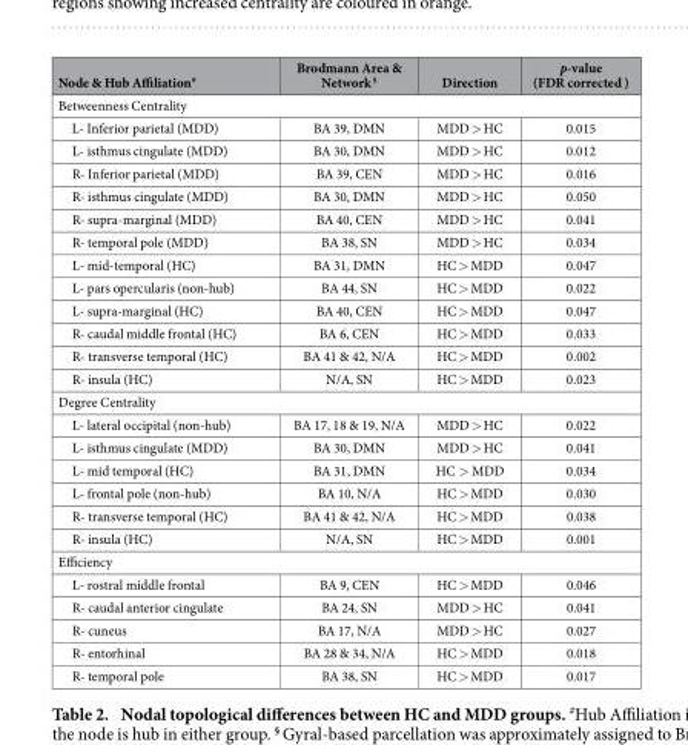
<table><thead><tr><td>Node &amp; Hub Affiliation#</td><td>Brodmann Area &amp; Network <sup>§</sup></td><td>Direction</td><td>p-value (FDR corrected )</td></tr></thead><tbody><tr><td colspan="4">Betweenness Centrality</td></tr><tr><td>L- Inferior parietal (MDD)</td><td>BA 39, DMN</td><td>MDD &gt; HC</td><td>0.015</td></tr><tr><td>L- isthmus cingulate (MDD)</td><td>BA 30, DMN</td><td>MDD &gt; HC</td><td>0.012</td></tr><tr><td>R- Inferior parietal (MDD)</td><td>BA 39, CEN</td><td>MDD &gt; HC</td><td>0.016</td></tr><tr><td>R- isthmus cingulate (MDD)</td><td>BA 30, DMN</td><td>MDD &gt; HC</td><td>0.050</td></tr><tr><td>R- supra-marginal (MDD)</td><td>BA 40, CEN</td><td>MDD &gt; HC</td><td>0.041</td></tr><tr><td>R- temporal pole (MDD)</td><td>BA 38, SN</td><td>MDD &gt; HC</td><td>0.034</td></tr><tr><td>L- mid-temporal (HC)</td><td>BA 31, DMN</td><td>HC &gt; MDD</td><td>0.047</td></tr><tr><td>L- pars opercularis (non-hub)</td><td>BA 44, SN</td><td>HC &gt; MDD</td><td>0.022</td></tr><tr><td>L- supra-marginal (HC)</td><td>BA 40, CEN</td><td>HC &gt; MDD</td><td>0.047</td></tr><tr><td>R- caudal middle frontal (HC)</td><td>BA 6, CEN</td><td>HC &gt; MDD</td><td>0.033</td></tr><tr><td>R- transverse temporal (HC)</td><td>BA 41 &amp; 42, N/A</td><td>HC &gt; MDD</td><td>0.002</td></tr><tr><td>R- insula (HC)</td><td>N/A, SN</td><td>HC &gt; MDD</td><td>0.023</td></tr><tr><td colspan="4">Degree Centrality</td></tr><tr><td>L- lateral occipital (non-hub)</td><td>BA 17, 18 &amp; 19, N/A</td><td>MDD &gt; HC</td><td>0.022</td></tr><tr><td>L- isthmus cingulate (MDD)</td><td>BA 30, DMN</td><td>MDD &gt; HC</td><td>0.041</td></tr><tr><td>L- mid temporal (HC)</td><td>BA 31, DMN</td><td>HC &gt; MDD</td><td>0.034</td></tr><tr><td>L- frontal pole (non-hub)</td><td>BA 10, N/A</td><td>HC &gt; MDD</td><td>0.030</td></tr><tr><td>R- transverse temporal (HC)</td><td>BA 41 &amp; 42, N/A</td><td>HC &gt; MDD</td><td>0.038</td></tr><tr><td>R- insula (HC)</td><td>N/A, SN</td><td>HC &gt; MDD</td><td>0.001</td></tr><tr><td colspan="4">Efficiency</td></tr><tr><td>L- rostral middle frontal</td><td>BA 9, CEN</td><td>HC &gt; MDD</td><td>0.046</td></tr><tr><td>R- caudal anterior cingulate</td><td>BA 24, SN</td><td>MDD &gt; HC</td><td>0.041</td></tr><tr><td>R- cuneus</td><td>BA 17, N/A</td><td>MDD &gt; HC</td><td>0.027</td></tr><tr><td>R- entorhinal</td><td>BA 28 &amp; 34, N/A</td><td>HC &gt; MDD</td><td>0.018</td></tr><tr><td>R- temporal pole</td><td>BA 38, SN</td><td>HC &gt; MDD</td><td>0.017</td></tr></tbody></table>